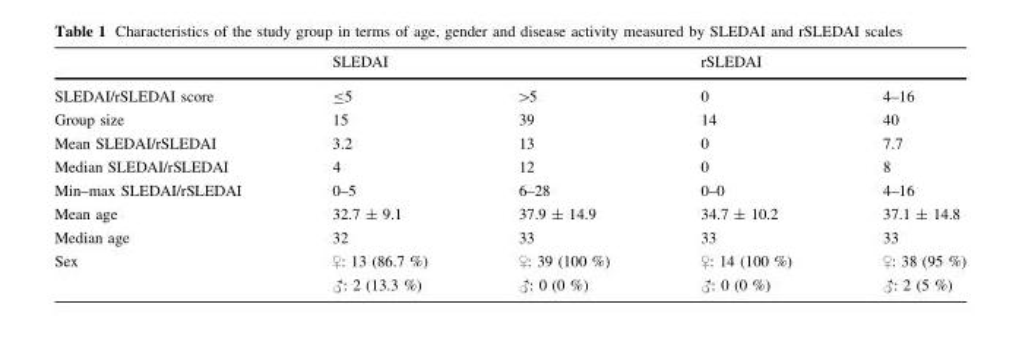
<table><thead><tr><td rowspan="2">SLEDAI/rSLEDAI score</td><td colspan="2">SLEDAI</td><td colspan="2">rSLEDAI</td></tr><tr><td>≤5</td><td>&gt;5</td><td>0</td><td>4–16</td></tr></thead><tbody><tr><td>Group size</td><td>15</td><td>39</td><td>14</td><td>40</td></tr><tr><td>Mean SLEDAI/rSLEDAI</td><td>3.2</td><td>13</td><td>0</td><td>7.7</td></tr><tr><td>Median SLEDAI/rSLEDAI</td><td>4</td><td>12</td><td>0</td><td>8</td></tr><tr><td>Min–max SLEDAI/rSLEDAI</td><td>0–5</td><td>6–28</td><td>0–0</td><td>4–16</td></tr><tr><td>Mean age</td><td>32.7 ± 9.1</td><td>37.9 ± 14.9</td><td>34.7 ± 10.2</td><td>37.1 ± 14.8</td></tr><tr><td>Median age</td><td>32</td><td>33</td><td>33</td><td>33</td></tr><tr><td rowspan="2">Sex</td><td>♀: 13 (86.7 %)</td><td>♀: 39 (100 %)</td><td>♀: 14 (100 %)</td><td>♀: 38 (95 %)</td></tr><tr><td>#: 2 (13.3 %)</td><td>#: 0 (0 %)</td><td>#: 0 (0 %)</td><td>#: 2 (5 %)</td></tr></tbody></table>